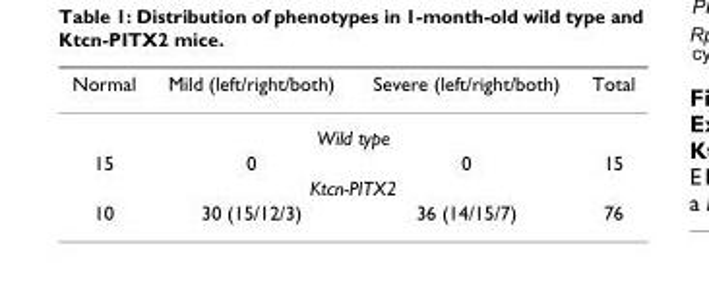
<table><thead><tr><td>Normal</td><td>Mild (left/right/both)</td><td>Severe (left/right/both)</td><td>Total</td></tr></thead><tbody><tr><td colspan="4">Wild type</td></tr><tr><td>15</td><td>0</td><td>0</td><td>15</td></tr><tr><td colspan="4">Ktcn-PITX2</td></tr><tr><td>10</td><td>30 (15/12/3)</td><td>36 (14/15/7)</td><td>76</td></tr></tbody></table>